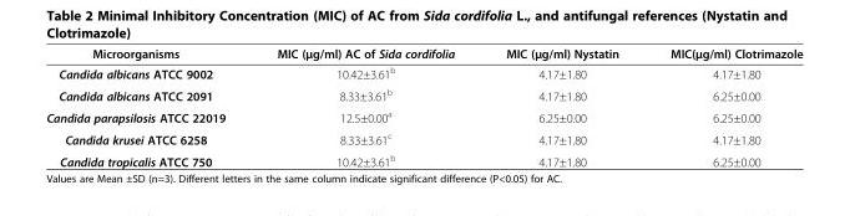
<table><thead><tr><td>Microorganisms</td><td>MIC (μg/ml) AC of Sida cordifolia</td><td>MIC (μg/ml) Nystatin</td><td>MIC(μg/ml) Clotrimazole</td></tr></thead><tbody><tr><td>Candida albicans ATCC 9002</td><td>10.42±3.61<sup>b</sup></td><td>4.17±1.80</td><td>4.17±1.80</td></tr><tr><td>Candida albicans ATCC 2091</td><td>8.33±3.61<sup>b</sup></td><td>4.17±1.80</td><td>6.25±0.00</td></tr><tr><td>Candida parapsilosis ATCC 22019</td><td>12.5±0.00<sup>a</sup></td><td>6.25±0.00</td><td>6.25±0.00</td></tr><tr><td>Candida krusei ATCC 6258</td><td>8.33±3.61<sup>c</sup></td><td>4.17±1.80</td><td>4.17±1.80</td></tr><tr><td>Candida tropicalis ATCC 750</td><td>10.42±3.61<sup>b</sup></td><td>4.17±1.80</td><td>6.25±0.00</td></tr></tbody></table>